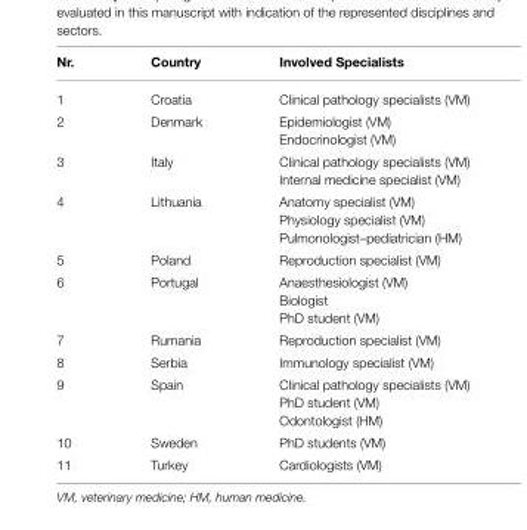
<table><thead><tr><td>Nr.</td><td>Country</td><td>Involved Specialists</td></tr></thead><tbody><tr><td>1</td><td>Croatia</td><td>Clinical pathology specialists (VM)</td></tr><tr><td>2</td><td>Denmark</td><td>Epidemiologist (VM) Endocrinologist (VM)</td></tr><tr><td>3</td><td>Italy</td><td>Clinical pathology specialists (VM) Internal medicine specialist (VM)</td></tr><tr><td>4</td><td>Lithuania</td><td>Anatomy specialist (VM) Physiology specialist (VM) Pulmonologist–pediatrician (HM)</td></tr><tr><td>5</td><td>Poland</td><td>Reproduction specialist (VM)</td></tr><tr><td>6</td><td>Portugal</td><td>Anaesthesiologist (VM) Biologist PhD student (VM)</td></tr><tr><td>7</td><td>Rumania</td><td>Reproduction specialist (VM)</td></tr><tr><td>8</td><td>Serbia</td><td>Immunology specialist (VM)</td></tr><tr><td>9</td><td>Spain</td><td>Clinical pathology specialists (VM) PhD student (VM) Odontologist (HM)</td></tr><tr><td>10</td><td>Sweden</td><td>PhD students (VM)</td></tr><tr><td>11</td><td>Turkey</td><td>Cardiologists (VM)</td></tr></tbody></table>